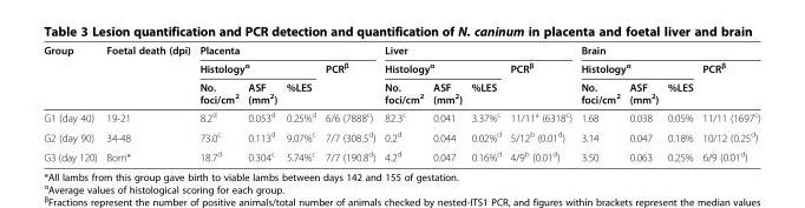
<table><thead><tr><td rowspan="3">Group</td><td rowspan="3">Foetal death (dpi)</td><td colspan="4">Placenta</td><td colspan="4">Liver</td><td colspan="4">Brain</td></tr><tr><td colspan="3">Histology<sup>α</sup></td><td rowspan="2">PCR<sup>β</sup></td><td colspan="3">Histology<sup>α</sup></td><td rowspan="2">PCR<sup>β</sup></td><td colspan="3">Histology<sup>α</sup></td><td rowspan="2">PCR<sup>β</sup></td></tr><tr><td>No. foci/cm<sup>2</sup></td><td>ASF (mm<sup>2</sup>)</td><td>%LES</td><td>No. foci/cm<sup>2</sup></td><td>ASF (mm<sup>2</sup>)</td><td>%LES</td><td>No. foci/cm<sup>2</sup></td><td>ASF (mm<sup>2</sup>)</td><td>%LES</td></tr></thead><tbody><tr><td>G1 (day 40)</td><td>19-21</td><td>8.2<sup>d</sup></td><td>0.053<sup>d</sup></td><td>0.25%<sup>d</sup></td><td>6/6 (7888<sup>c</sup>)</td><td>82.3<sup>c</sup></td><td>0.041</td><td>3.37%<sup>c</sup></td><td>11/11<sup>a</sup> (6318<sup>c</sup>)</td><td>1.68</td><td>0.038</td><td>0.05%</td><td>11/11 (1697<sup>c</sup>)</td></tr><tr><td>G2 (day 90)</td><td>34-48</td><td>73.0<sup>c</sup></td><td>0.113<sup>d</sup></td><td>9.07%<sup>c</sup></td><td>7/7 (308.5<sup>d</sup>)</td><td>0.2<sup>d</sup></td><td>0.044</td><td>0.02%<sup>d</sup></td><td>5/12<sup>b</sup> (0.01<sup>d</sup>)</td><td>3.14</td><td>0.047</td><td>0.18%</td><td>10/12 (0.25<sup>d</sup>)</td></tr><tr><td>G3 (day 120)</td><td>Born*</td><td>18.7<sup>d</sup></td><td>0.304<sup>c</sup></td><td>5.74%<sup>c</sup></td><td>7/7 (190.8<sup>d</sup>)</td><td>4.2<sup>d</sup></td><td>0.047</td><td>0.16%<sup>d</sup></td><td>4/9<sup>b</sup> (0.01<sup>d</sup>)</td><td>3.50</td><td>0.063</td><td>0.25%</td><td>6/9 (0.01<sup>d</sup>)</td></tr></tbody></table>